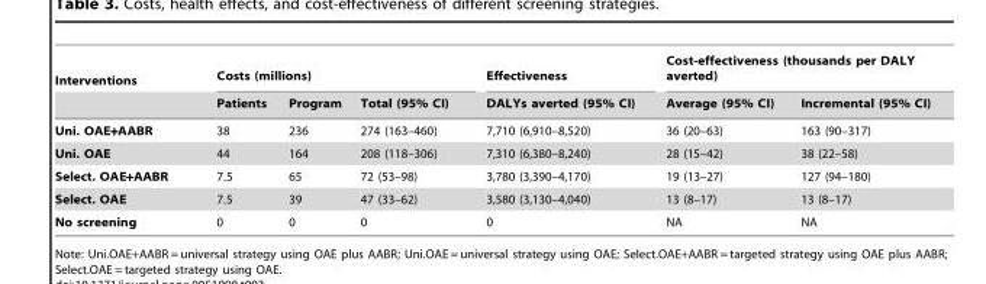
<table><thead><tr><td rowspan="2">Interventions</td><td colspan="3">Costs (millions)</td><td rowspan="2">Effectiveness DALYs averted (95% CI)</td><td colspan="2">Cost-effectiveness (thousands per DALY averted)</td></tr><tr><td>Patients</td><td>Program</td><td>Total (95% CI)</td><td>Average (95% CI)</td><td>Incremental (95% CI)</td></tr></thead><tbody><tr><td>Uni. OAE+AABR</td><td>38</td><td>236</td><td>274 (163–460)</td><td>7,710 (6,910–8,520)</td><td>36 (20–63)</td><td>163 (90–317)</td></tr><tr><td>Uni. OAE</td><td>44</td><td>164</td><td>208 (118–306)</td><td>7,310 (6,380–8,240)</td><td>28 (15–42)</td><td>38 (22–58)</td></tr><tr><td>Select. OAE+AABR</td><td>7.5</td><td>65</td><td>72 (53–98)</td><td>3,780 (3,390–4,170)</td><td>19 (13–27)</td><td>127 (94–180)</td></tr><tr><td>Select. OAE</td><td>7.5</td><td>39</td><td>47 (33–62)</td><td>3,580 (3,130–4,040)</td><td>13 (8–17)</td><td>13 (8–17)</td></tr><tr><td>No screening</td><td>0</td><td>0</td><td>0</td><td>0</td><td>NA</td><td>NA</td></tr></tbody></table>